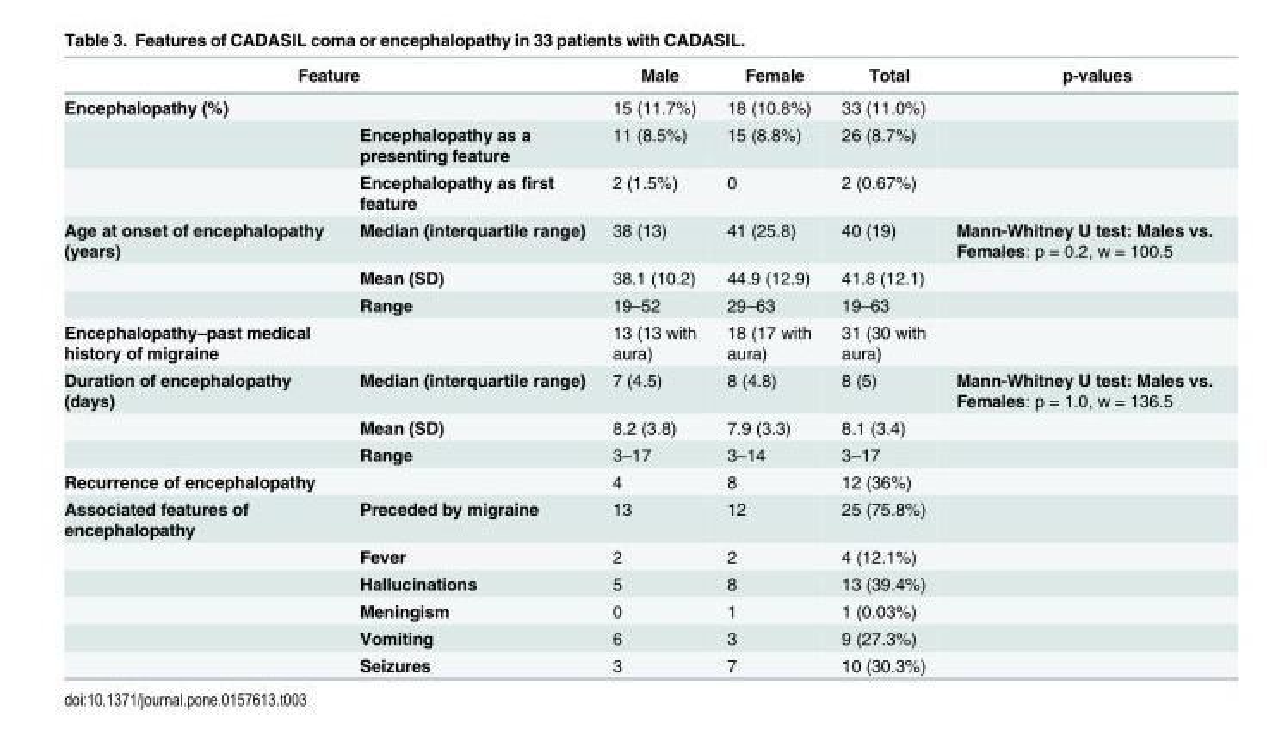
<table><thead><tr><td colspan="2">Feature</td><td rowspan="2">Male 15 (11.7%)</td><td rowspan="2">Female 18 (10.8%)</td><td rowspan="2">Total 33 (11.0%)</td><td rowspan="2">p-values</td></tr><tr><td>Encephalopathy (%)</td><td></td></tr></thead><tbody><tr><td></td><td>Encephalopathy as a presenting feature</td><td>11 (8.5%)</td><td>15 (8.8%)</td><td>26 (8.7%)</td><td></td></tr><tr><td></td><td>Encephalopathy as first feature</td><td>2 (1.5%)</td><td>0</td><td>2 (0.67%)</td><td></td></tr><tr><td rowspan="3">Age at onset of encephalopathy (years)</td><td>Median (interquartile range)</td><td>38 (13)</td><td>41 (25.8)</td><td>40 (19)</td><td>Mann-Whitney U test: Males vs. Females: p = 0.2, w = 100.5</td></tr><tr><td>Mean (SD)</td><td>38.1 (10.2)</td><td>44.9 (12.9)</td><td>41.8 (12.1)</td><td></td></tr><tr><td>Range</td><td>19–52</td><td>29–63</td><td>19–63</td><td></td></tr><tr><td>Encephalopathy–past medical history of migraine</td><td></td><td>13 (13 with aura)</td><td>18 (17 with aura)</td><td>31 (30 with aura)</td><td></td></tr><tr><td rowspan="3">Duration of encephalopathy (days)</td><td>Median (interquartile range)</td><td>7 (4.5)</td><td>8 (4.8)</td><td>8 (5)</td><td>Mann-Whitney U test: Males vs. Females: p = 1.0, w = 136.5</td></tr><tr><td>Mean (SD)</td><td>8.2 (3.8)</td><td>7.9 (3.3)</td><td>8.1 (3.4)</td><td></td></tr><tr><td>Range</td><td>3–17</td><td>3–14</td><td>3–17</td><td></td></tr><tr><td>Recurrence of encephalopathy</td><td></td><td>4</td><td>8</td><td>12 (36%)</td><td></td></tr><tr><td rowspan="6">Associated features of encephalopathy</td><td>Preceded by migraine</td><td>13</td><td>12</td><td>25 (75.8%)</td><td></td></tr><tr><td>Fever</td><td>2</td><td>2</td><td>4 (12.1%)</td><td></td></tr><tr><td>Hallucinations</td><td>5</td><td>8</td><td>13 (39.4%)</td><td></td></tr><tr><td>Meningism</td><td>0</td><td>1</td><td>1 (0.03%)</td><td></td></tr><tr><td>Vomiting</td><td>6</td><td>3</td><td>9 (27.3%)</td><td></td></tr><tr><td>Seizures</td><td>3</td><td>7</td><td>10 (30.3%)</td><td></td></tr></tbody></table>